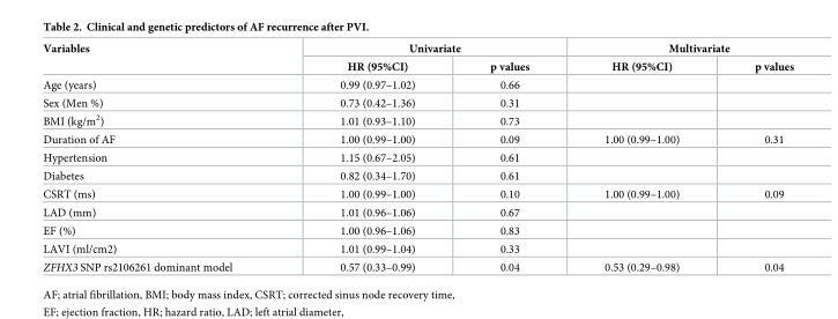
<table><thead><tr><td rowspan="2">Variables</td><td colspan="2">Univariate</td><td colspan="2">Multivariate</td></tr><tr><td>HR (95%CI)</td><td>p values</td><td>HR (95%CI)</td><td>p values</td></tr></thead><tbody><tr><td>Age (years)</td><td>0.99 (0.97–1.02)</td><td>0.66</td><td></td><td></td></tr><tr><td>Sex (Men %)</td><td>0.73 (0.42–1.36)</td><td>0.31</td><td></td><td></td></tr><tr><td>BMI (kg/m<sup>2</sup>)</td><td>1.01 (0.93–1.10)</td><td>0.73</td><td></td><td></td></tr><tr><td>Duration of AF</td><td>1.00 (0.99–1.00)</td><td>0.09</td><td>1.00 (0.99–1.00)</td><td>0.31</td></tr><tr><td>Hypertension</td><td>1.15 (0.67–2.05)</td><td>0.61</td><td></td><td></td></tr><tr><td>Diabetes</td><td>0.82 (0.34–1.70)</td><td>0.61</td><td></td><td></td></tr><tr><td>CSRT (ms)</td><td>1.00 (0.99–1.00)</td><td>0.10</td><td>1.00 (0.99–1.00)</td><td>0.09</td></tr><tr><td>LAD (mm)</td><td>1.01 (0.96–1.06)</td><td>0.67</td><td></td><td></td></tr><tr><td>EF (%)</td><td>1.00 (0.96–1.06)</td><td>0.83</td><td></td><td></td></tr><tr><td>LAVI (ml/cm2)</td><td>1.01 (0.99–1.04)</td><td>0.33</td><td></td><td></td></tr><tr><td>ZFHX3 SNP rs2106261 dominant model</td><td>0.57 (0.33–0.99)</td><td>0.04</td><td>0.53 (0.29–0.98)</td><td>0.04</td></tr></tbody></table>